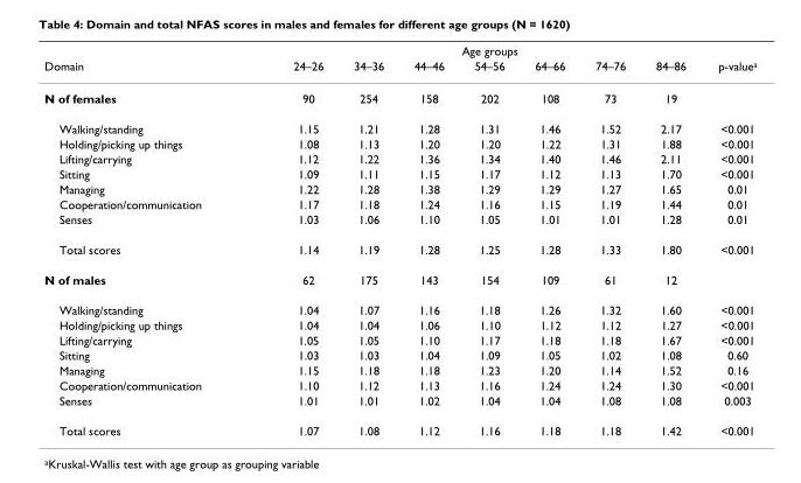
<table><thead><tr><td rowspan="2">Domain</td><td colspan="7">Age groups</td><td rowspan="2">p-value<sup>a</sup></td></tr><tr><td>24–26</td><td>34–36</td><td>44–46</td><td>54–56</td><td>64–66</td><td>74–76</td><td>84–86</td></tr></thead><tbody><tr><td>N of females</td><td>90</td><td>254</td><td>158</td><td>202</td><td>108</td><td>73</td><td>19</td><td></td></tr><tr><td>Walking/standing</td><td>1.15</td><td>1.21</td><td>1.28</td><td>1.31</td><td>1.46</td><td>1.52</td><td>2.17</td><td>&lt;0.001</td></tr><tr><td>Holding/picking up things</td><td>1.08</td><td>1.13</td><td>1.20</td><td>1.20</td><td>1.22</td><td>1.31</td><td>1.88</td><td>&lt;0.001</td></tr><tr><td>Lifting/carrying</td><td>1.12</td><td>1.22</td><td>1.36</td><td>1.34</td><td>1.40</td><td>1.46</td><td>2.11</td><td>&lt;0.001</td></tr><tr><td>Sitting</td><td>1.09</td><td>1.11</td><td>1.15</td><td>1.17</td><td>1.12</td><td>1.13</td><td>1.70</td><td>&lt;0.001</td></tr><tr><td>Managing</td><td>1.22</td><td>1.28</td><td>1.38</td><td>1.29</td><td>1.29</td><td>1.27</td><td>1.65</td><td>0.01</td></tr><tr><td>Cooperation/communication</td><td>1.17</td><td>1.18</td><td>1.24</td><td>1.16</td><td>1.15</td><td>1.19</td><td>1.44</td><td>0.01</td></tr><tr><td>Senses</td><td>1.03</td><td>1.06</td><td>1.10</td><td>1.05</td><td>1.01</td><td>1.01</td><td>1.28</td><td>0.01</td></tr><tr><td>Total scores</td><td>1.14</td><td>1.19</td><td>1.28</td><td>1.25</td><td>1.28</td><td>1.33</td><td>1.80</td><td>&lt;0.001</td></tr><tr><td>N of males</td><td>62</td><td>175</td><td>143</td><td>154</td><td>109</td><td>61</td><td>12</td><td></td></tr><tr><td>Walking/standing</td><td>1.04</td><td>1.07</td><td>1.16</td><td>1.18</td><td>1.26</td><td>1.32</td><td>1.60</td><td>&lt;0.001</td></tr><tr><td>Holding/picking up things</td><td>1.04</td><td>1.04</td><td>1.06</td><td>1.10</td><td>1.12</td><td>1.12</td><td>1.27</td><td>&lt;0.001</td></tr><tr><td>Lifting/carrying</td><td>1.05</td><td>1.05</td><td>1.10</td><td>1.17</td><td>1.18</td><td>1.18</td><td>1.67</td><td>&lt;0.001</td></tr><tr><td>Sitting</td><td>1.03</td><td>1.03</td><td>1.04</td><td>1.09</td><td>1.05</td><td>1.02</td><td>1.08</td><td>0.60</td></tr><tr><td>Managing</td><td>1.15</td><td>1.18</td><td>1.18</td><td>1.23</td><td>1.20</td><td>1.14</td><td>1.52</td><td>0.16</td></tr><tr><td>Cooperation/communication</td><td>1.10</td><td>1.12</td><td>1.13</td><td>1.16</td><td>1.24</td><td>1.24</td><td>1.30</td><td>&lt;0.001</td></tr><tr><td>Senses</td><td>1.01</td><td>1.01</td><td>1.02</td><td>1.04</td><td>1.04</td><td>1.08</td><td>1.08</td><td>0.003</td></tr><tr><td>Total scores</td><td>1.07</td><td>1.08</td><td>1.12</td><td>1.16</td><td>1.18</td><td>1.18</td><td>1.42</td><td>&lt;0.001</td></tr></tbody></table>